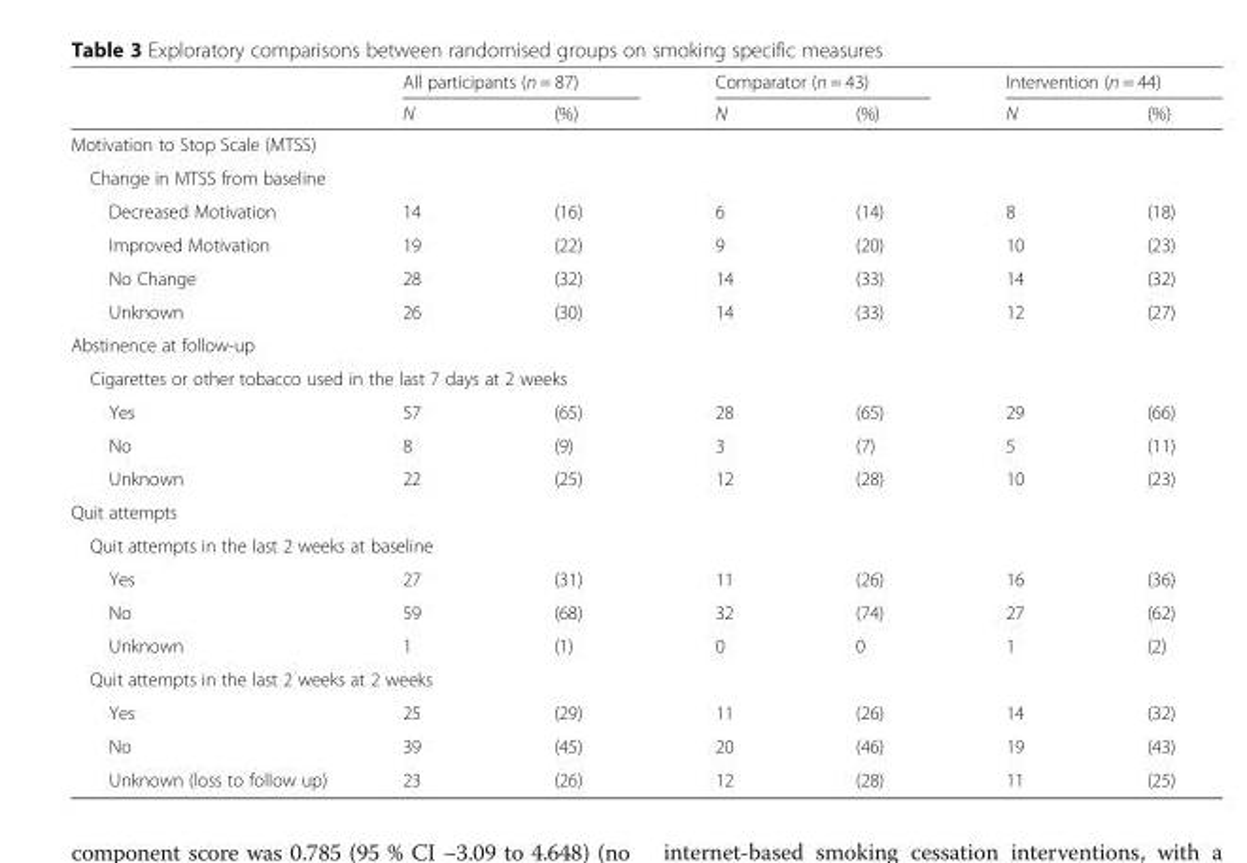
<table><thead><tr><td rowspan="2"></td><td colspan="2">All participants (n = 87)</td><td colspan="2">Comparator (n = 43)</td><td colspan="2">Intervention (n = 44)</td></tr><tr><td>N</td><td>(%)</td><td>N</td><td>(%)</td><td>N</td><td>(%)</td></tr></thead><tbody><tr><td colspan="7">Motivation to Stop Scale (MTSS)</td></tr><tr><td colspan="7">Change in MTSS from baseline</td></tr><tr><td>Decreased Motivation</td><td>14</td><td>(16)</td><td>6</td><td>(14)</td><td>8</td><td>(18)</td></tr><tr><td>Improved Motivation</td><td>19</td><td>(22)</td><td>9</td><td>(20)</td><td>10</td><td>(23)</td></tr><tr><td>No Change</td><td>28</td><td>(32)</td><td>14</td><td>(33)</td><td>14</td><td>(32)</td></tr><tr><td>Unknown</td><td>26</td><td>(30)</td><td>14</td><td>(33)</td><td>12</td><td>(27)</td></tr><tr><td colspan="7">Abstinence at follow-up</td></tr><tr><td colspan="7">Cigarettes or other tobacco used in the last 7 days at 2 weeks</td></tr><tr><td>Yes</td><td>57</td><td>(65)</td><td>28</td><td>(65)</td><td>29</td><td>(66)</td></tr><tr><td>No</td><td>8</td><td>(9)</td><td>3</td><td>(7)</td><td>5</td><td>(11)</td></tr><tr><td>Unknown</td><td>22</td><td>(25)</td><td>12</td><td>(28)</td><td>10</td><td>(23)</td></tr><tr><td colspan="7">Quit attempts</td></tr><tr><td colspan="7">Quit attempts in the last 2 weeks at baseline</td></tr><tr><td>Yes</td><td>27</td><td>(31)</td><td>11</td><td>(26)</td><td>16</td><td>(36)</td></tr><tr><td>No</td><td>59</td><td>(68)</td><td>32</td><td>(74)</td><td>27</td><td>(62)</td></tr><tr><td>Unknown</td><td>1</td><td>(1)</td><td>0</td><td>0</td><td>1</td><td>(2)</td></tr><tr><td colspan="7">Quit attempts in the last 2 weeks at 2 weeks</td></tr><tr><td>Yes</td><td>25</td><td>(29)</td><td>11</td><td>(26)</td><td>14</td><td>(32)</td></tr><tr><td>No</td><td>39</td><td>(45)</td><td>20</td><td>(46)</td><td>19</td><td>(43)</td></tr><tr><td>Unknown (loss to follow up)</td><td>23</td><td>(26)</td><td>12</td><td>(28)</td><td>11</td><td>(25)</td></tr></tbody></table>